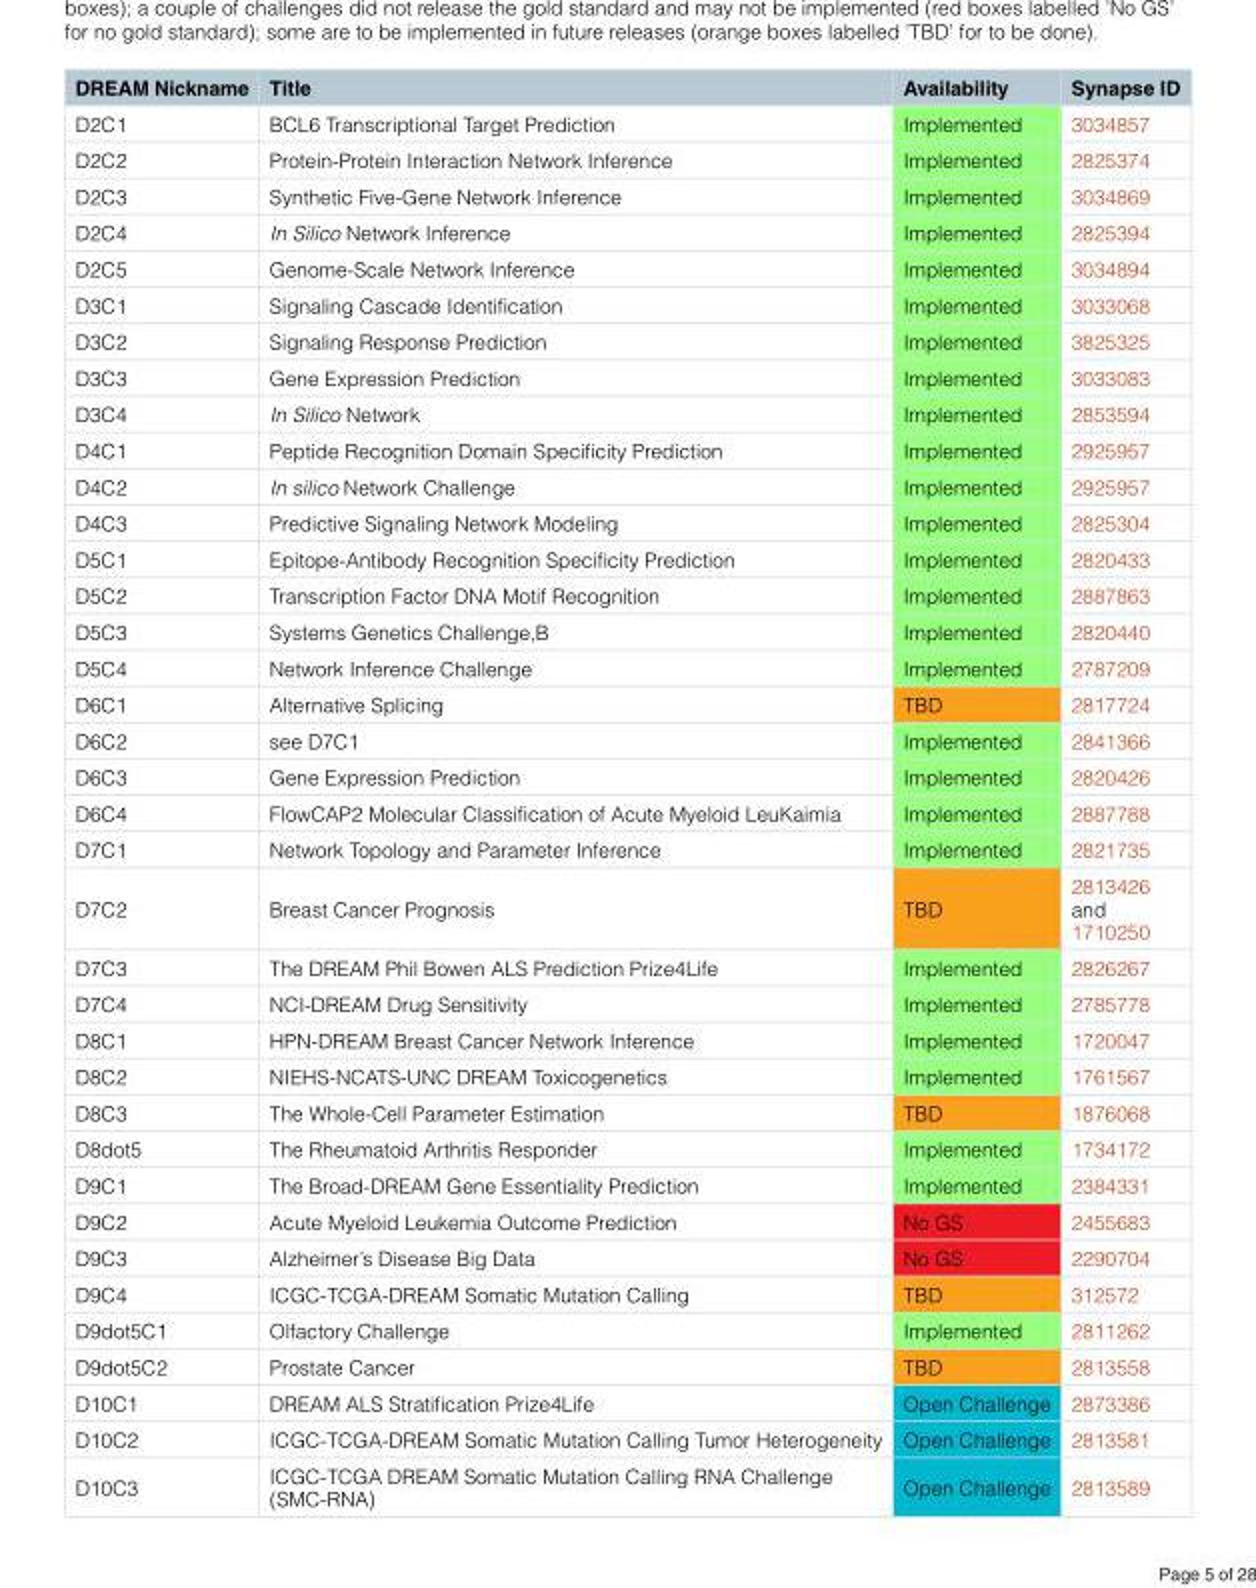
<table><thead><tr><td>DREAM Nickname</td><td>Title</td><td>Availability</td><td>Synapse ID</td></tr></thead><tbody><tr><td>D2C1</td><td>BCL6 Transcriptional Target Prediction</td><td>Implemented</td><td>3034857</td></tr><tr><td>D2C2</td><td>Protein-Protein Interaction Network Inference</td><td>Implemented</td><td>2825374</td></tr><tr><td>D2C3</td><td>Synthetic Five-Gene Network Inference</td><td>Implemented</td><td>3034869</td></tr><tr><td>D2C4</td><td>In Silico Network Inference</td><td>Implemented</td><td>2825394</td></tr><tr><td>D2C5</td><td>Genome-Scale Network Inference</td><td>Implemented</td><td>3034894</td></tr><tr><td>D3C1</td><td>Signaling Cascade Identification</td><td>Implemented</td><td>3033068</td></tr><tr><td>D3C2</td><td>Signaling Response Prediction</td><td>Implemented</td><td>3825325</td></tr><tr><td>D3C3</td><td>Gene Expression Prediction</td><td>Implemented</td><td>3033083</td></tr><tr><td>D3C4</td><td>In Silico Network</td><td>Implemented</td><td>2853594</td></tr><tr><td>D4C1</td><td>Peptide Recognition Domain Specificity Prediction</td><td>Implemented</td><td>2925957</td></tr><tr><td>D4C2</td><td>In silico Network Challenge</td><td>Implemented</td><td>2925957</td></tr><tr><td>D4C3</td><td>Predictive Signaling Network Modeling</td><td>Implemented</td><td>2825304</td></tr><tr><td>D5C1</td><td>Epitope-Antibody Recognition Specificity Prediction</td><td>Implemented</td><td>2820433</td></tr><tr><td>D5C2</td><td>Transcription Factor DNA Motif Recognition</td><td>Implemented</td><td>2887863</td></tr><tr><td>D5C3</td><td>Systems Genetics Challenge,B</td><td>Implemented</td><td>2820440</td></tr><tr><td>D5C4</td><td>Network Inference Challenge</td><td>Implemented</td><td>2787209</td></tr><tr><td>D6C1</td><td>Alternative Splicing</td><td>TBD</td><td>2817724</td></tr><tr><td>D6C2</td><td>see D7C1</td><td>Implemented</td><td>2841366</td></tr><tr><td>D6C3</td><td>Gene Expression Prediction</td><td>Implemented</td><td>2820426</td></tr><tr><td>D6C4</td><td>FlowCAP2 Molecular Classification of Acute Myeloid LeuKaimia</td><td>Implemented</td><td>2887788</td></tr><tr><td>D7C1</td><td>Network Topology and Parameter Inference</td><td>Implemented</td><td>2821735</td></tr><tr><td>D7C2</td><td>Breast Cancer Prognosis</td><td>TBD</td><td>2813426 and 1710250</td></tr><tr><td>D7C3</td><td>The DREAM Phil Bowen ALS Prediction Prize4Life</td><td>Implemented</td><td>2826267</td></tr><tr><td>D7C4</td><td>NCI-DREAM Drug Sensitivity</td><td>Implemented</td><td>2785778</td></tr><tr><td>D8C1</td><td>HPN-DREAM Breast Cancer Network Inference</td><td>Implemented</td><td>1720047</td></tr><tr><td>D8C2</td><td>NIEHS-NCATS-UNC DREAM Toxicogenetics</td><td>Implemented</td><td>1761567</td></tr><tr><td>D8C3</td><td>The Whole-Cell Parameter Estimation</td><td>TBD</td><td>1876068</td></tr><tr><td>D8dot5</td><td>The Rheumatoid Arthritis Responder</td><td>Implemented</td><td>1734172</td></tr><tr><td>D9C1</td><td>The Broad-DREAM Gene Essentiality Prediction</td><td>Implemented</td><td>2384331</td></tr><tr><td>D9C2</td><td>Acute Myeloid Leukemia Outcome Prediction</td><td>No GS</td><td>2455683</td></tr><tr><td>D9C3</td><td>Alzheimer’s Disease Big Data</td><td>No GS</td><td>2290704</td></tr><tr><td>D9C4</td><td>ICGC-TCGA-DREAM Somatic Mutation Calling</td><td>TBD</td><td>312572</td></tr><tr><td>D9dot5C1</td><td>Olfactory Challenge</td><td>Implemented</td><td>2811262</td></tr><tr><td>D9dot5C2</td><td>Prostate Cancer</td><td>TBD</td><td>2813558</td></tr><tr><td>D10C1</td><td>DREAM ALS Stratification Prize4Life</td><td>Open Challenge</td><td>2873386</td></tr><tr><td>D10C2</td><td>ICGC-TCGA-DREAM Somatic Mutation Calling Tumor Heterogeneity</td><td>Open Challenge</td><td>2813581</td></tr><tr><td>D10C3</td><td>ICGC-TCGA DREAM Somatic Mutation Calling RNA Challenge (SMC-RNA)</td><td>Open Challenge</td><td>2813589</td></tr></tbody></table>